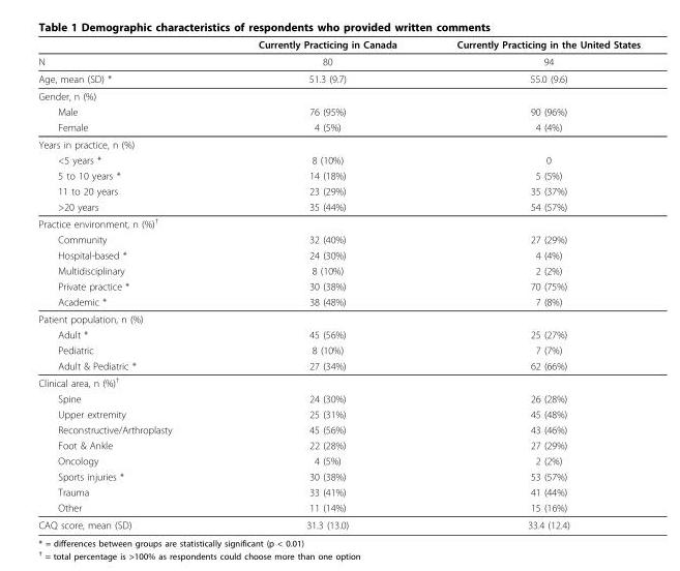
<table><thead><tr><td></td><td>Currently Practicing in Canada</td><td>Currently Practicing in the United States</td></tr></thead><tbody><tr><td>N</td><td>80</td><td>94</td></tr><tr><td>Age, mean (SD) *</td><td>51.3 (9.7)</td><td>55.0 (9.6)</td></tr><tr><td colspan="3">Gender, n (%)</td></tr><tr><td>Male</td><td>76 (95%)</td><td>90 (96%)</td></tr><tr><td>Female</td><td>4 (5%)</td><td>4 (4%)</td></tr><tr><td colspan="3">Years in practice, n (%)</td></tr><tr><td>&lt;5 years *</td><td>8 (10%)</td><td>0</td></tr><tr><td>5 to 10 years *</td><td>14 (18%)</td><td>5 (5%)</td></tr><tr><td>11 to 20 years</td><td>23 (29%)</td><td>35 (37%)</td></tr><tr><td>&gt;20 years</td><td>35 (44%)</td><td>54 (57%)</td></tr><tr><td colspan="3">Practice environment, n (%)<sup>†</sup></td></tr><tr><td>Community</td><td>32 (40%)</td><td>27 (29%)</td></tr><tr><td>Hospital-based *</td><td>24 (30%)</td><td>4 (4%)</td></tr><tr><td>Multidisciplinary</td><td>8 (10%)</td><td>2 (2%)</td></tr><tr><td>Private practice *</td><td>30 (38%)</td><td>70 (75%)</td></tr><tr><td>Academic *</td><td>38 (48%)</td><td>7 (8%)</td></tr><tr><td colspan="3">Patient population, n (%)</td></tr><tr><td>Adult *</td><td>45 (56%)</td><td>25 (27%)</td></tr><tr><td>Pediatric</td><td>8 (10%)</td><td>7 (7%)</td></tr><tr><td>Adult &amp; Pediatric *</td><td>27 (34%)</td><td>62 (66%)</td></tr><tr><td colspan="3">Clinical area, n (%)<sup>†</sup></td></tr><tr><td>Spine</td><td>24 (30%)</td><td>26 (28%)</td></tr><tr><td>Upper extremity</td><td>25 (31%)</td><td>45 (48%)</td></tr><tr><td>Reconstructive/Arthroplasty</td><td>45 (56%)</td><td>43 (46%)</td></tr><tr><td>Foot &amp; Ankle</td><td>22 (28%)</td><td>27 (29%)</td></tr><tr><td>Oncology</td><td>4 (5%)</td><td>2 (2%)</td></tr><tr><td>Sports injuries *</td><td>30 (38%)</td><td>53 (57%)</td></tr><tr><td>Trauma</td><td>33 (41%)</td><td>41 (44%)</td></tr><tr><td>Other</td><td>11 (14%)</td><td>15 (16%)</td></tr><tr><td>CAQ score, mean (SD)</td><td>31.3 (13.0)</td><td>33.4 (12.4)</td></tr></tbody></table>